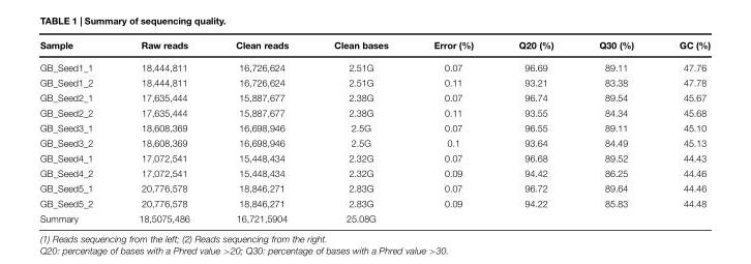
<table><thead><tr><td>Sample</td><td>Raw reads</td><td>Clean reads</td><td>Clean bases</td><td>Error (%)</td><td>Q20 (%)</td><td>Q30 (%)</td><td>GC (%)</td></tr></thead><tbody><tr><td>GB_Seed1_1</td><td>18,444,811</td><td>16,726,624</td><td>2.51G</td><td>0.07</td><td>96.69</td><td>89.11</td><td>47.76</td></tr><tr><td>GB_Seed1_2</td><td>18,444,811</td><td>16,726,624</td><td>2.51G</td><td>0.11</td><td>93.21</td><td>83.38</td><td>47.78</td></tr><tr><td>GB_Seed2_1</td><td>17,635,444</td><td>15,887,677</td><td>2.38G</td><td>0.07</td><td>96.74</td><td>89.54</td><td>45.67</td></tr><tr><td>GB_Seed2_2</td><td>17,635,444</td><td>15,887,677</td><td>2.38G</td><td>0.11</td><td>93.55</td><td>84.34</td><td>45.68</td></tr><tr><td>GB_Seed3_1</td><td>18,608,369</td><td>16,698,946</td><td>2.5G</td><td>0.07</td><td>96.55</td><td>89.11</td><td>45.10</td></tr><tr><td>GB_Seed3_2</td><td>18,608,369</td><td>16,698,946</td><td>2.5G</td><td>0.1</td><td>93.64</td><td>84.49</td><td>45.13</td></tr><tr><td>GB_Seed4_1</td><td>17,072,541</td><td>15,448,434</td><td>2.32G</td><td>0.07</td><td>96.68</td><td>89.52</td><td>44.43</td></tr><tr><td>GB_Seed4_2</td><td>17,072,541</td><td>15,448,434</td><td>2.32G</td><td>0.09</td><td>94.42</td><td>86.25</td><td>44.46</td></tr><tr><td>GB_Seed5_1</td><td>20,776,578</td><td>18,846,271</td><td>2.83G</td><td>0.07</td><td>96.72</td><td>89.64</td><td>44.46</td></tr><tr><td>GB_Seed5_2</td><td>20,776,578</td><td>18,846,271</td><td>2.83G</td><td>0.09</td><td>94.22</td><td>85.83</td><td>44.48</td></tr><tr><td>Summary</td><td>18,5075,486</td><td>16,721,5904</td><td>25.08G</td><td></td><td></td><td></td><td></td></tr></tbody></table>